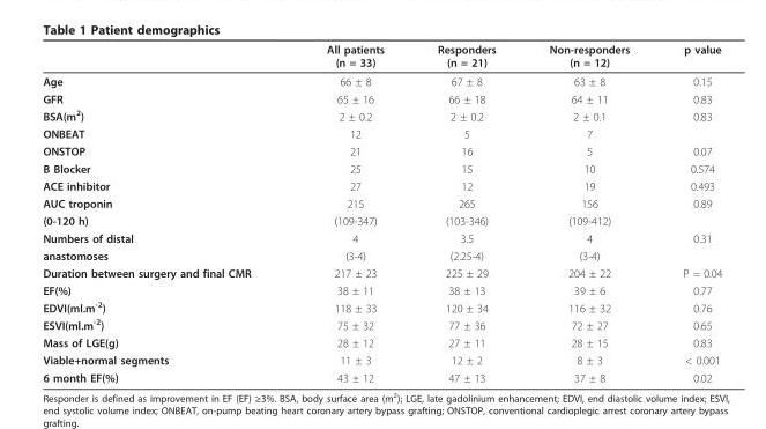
<table><thead><tr><td></td><td>All patients (n = 33)</td><td>Responders (n = 21)</td><td>Non-responders (n = 12)</td><td>p value</td></tr></thead><tbody><tr><td>Age</td><td>66 ± 8</td><td>67 ± 8</td><td>63 ± 8</td><td>0.15</td></tr><tr><td>GFR</td><td>65 ± 16</td><td>66 ± 18</td><td>64 ± 11</td><td>0.83</td></tr><tr><td>BSA(m<sup>2</sup>)</td><td>2 ± 0.2</td><td>2 ± 0.2</td><td>2 ± 0.1</td><td>0.83</td></tr><tr><td>ONBEAT</td><td>12</td><td>5</td><td>7</td><td></td></tr><tr><td>ONSTOP</td><td>21</td><td>16</td><td>5</td><td>0.07</td></tr><tr><td>B Blocker</td><td>25</td><td>15</td><td>10</td><td>0.574</td></tr><tr><td>ACE inhibitor</td><td>27</td><td>12</td><td>19</td><td>0.493</td></tr><tr><td>AUC troponin</td><td>215</td><td>265</td><td>156</td><td>0.89</td></tr><tr><td>(0-120 h)</td><td>(109-347)</td><td>(103-346)</td><td>(109-412)</td><td></td></tr><tr><td>Numbers of distal</td><td>4</td><td>3.5</td><td>4</td><td>0.31</td></tr><tr><td>anastomoses</td><td>(3-4)</td><td>(2.25-4)</td><td>(3-4)</td><td></td></tr><tr><td>Duration between surgery and final CMR</td><td>217 ± 23</td><td>225 ± 29</td><td>204 ± 22</td><td>P = 0.04</td></tr><tr><td>EF(%)</td><td>38 ± 11</td><td>38 ± 13</td><td>39 ± 6</td><td>0.77</td></tr><tr><td>EDVI(ml.m<sup>-2</sup>)</td><td>118 ± 33</td><td>120 ± 34</td><td>116 ± 32</td><td>0.76</td></tr><tr><td>ESVI(ml.m<sup>-2</sup>)</td><td>75 ± 32</td><td>77 ± 36</td><td>72 ± 27</td><td>0.65</td></tr><tr><td>Mass of LGE(g)</td><td>28 ± 12</td><td>27 ± 11</td><td>28 ± 15</td><td>0.83</td></tr><tr><td>Viable+normal segments</td><td>11 ± 3</td><td>12 ± 2</td><td>8 ± 3</td><td>&lt; 0.001</td></tr><tr><td>6 month EF(%)</td><td>43 ± 12</td><td>47 ± 13</td><td>37 ± 8</td><td>0.02</td></tr></tbody></table>